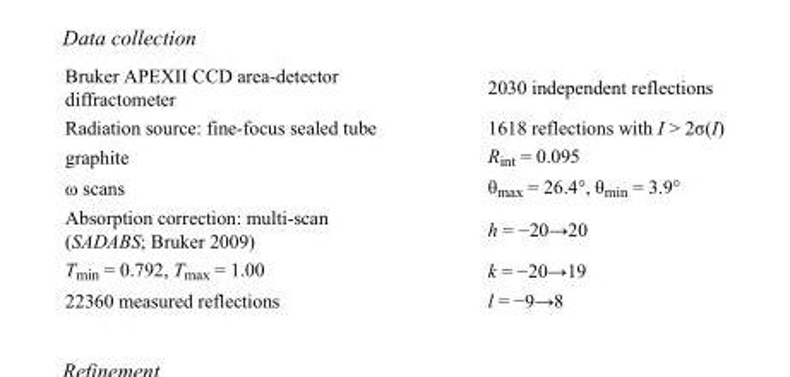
<table><tbody><tr><td>Bruker APEXII CCD area-detector diffractometer</td><td>2030 independent reflections</td></tr><tr><td>Radiation source: fine-focus sealed tube</td><td>1618 reflections with I &gt; 2σ(I)</td></tr><tr><td>graphite</td><td>R<sub>int</sub> = 0.095</td></tr><tr><td>ω scans</td><td>θ<sub>max</sub> = 26.4°, θ<sub>min</sub> = 3.9°</td></tr><tr><td>Absorption correction: multi-scan (SADABS; Bruker 2009)</td><td>h = −20→20</td></tr><tr><td>T<sub>min</sub> = 0.792, T<sub>max</sub> = 1.00</td><td>k = −20→19</td></tr><tr><td>22360 measured reflections</td><td>l = −9→8</td></tr></tbody></table>